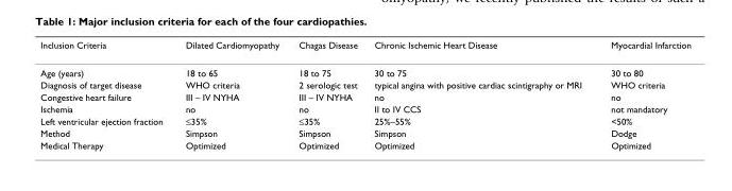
<table><thead><tr><td>Inclusion Criteria</td><td>Dilated Cardiomyopathy</td><td>Chagas Disease</td><td>Chronic Ischemic Heart Disease</td><td>Myocardial Infarction</td></tr></thead><tbody><tr><td>Age (years)</td><td>18 to 65</td><td>18 to 75</td><td>30 to 75</td><td>30 to 80</td></tr><tr><td>Diagnosis of target disease</td><td>WHO criteria</td><td>2 serologic test</td><td>typical angina with positive cardiac scintigraphy or MRI</td><td>WHO criteria</td></tr><tr><td>Congestive heart failure</td><td>III – IV NYHA</td><td>III – IV NYHA</td><td>no</td><td>no</td></tr><tr><td>Ischemia</td><td>no</td><td>no</td><td>II to IV CCS</td><td>not mandatory</td></tr><tr><td>Left ventricular ejection fraction</td><td>≤35%</td><td>≤35%</td><td>25%–55%</td><td>&lt;50%</td></tr><tr><td>Method</td><td>Simpson</td><td>Simpson</td><td>Simpson</td><td>Dodge</td></tr><tr><td>Medical Therapy</td><td>Optimized</td><td>Optimized</td><td>Optimized</td><td>Optimized</td></tr></tbody></table>